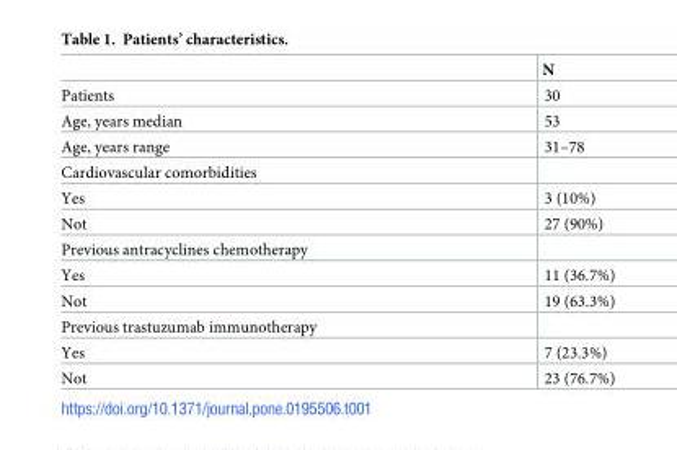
<table><thead><tr><td></td><td>N</td></tr></thead><tbody><tr><td>Patients</td><td>30</td></tr><tr><td>Age, years median</td><td>53</td></tr><tr><td>Age, years range</td><td>31–78</td></tr><tr><td colspan="2">Cardiovascular comorbidities</td></tr><tr><td>Yes</td><td>3 (10%)</td></tr><tr><td>Not</td><td>27 (90%)</td></tr><tr><td colspan="2">Previous antracyclines chemotherapy</td></tr><tr><td>Yes</td><td>11 (36.7%)</td></tr><tr><td>Not</td><td>19 (63.3%)</td></tr><tr><td colspan="2">Previous trastuzumab immunotherapy</td></tr><tr><td>Yes</td><td>7 (23.3%)</td></tr><tr><td>Not</td><td>23 (76.7%)</td></tr></tbody></table>